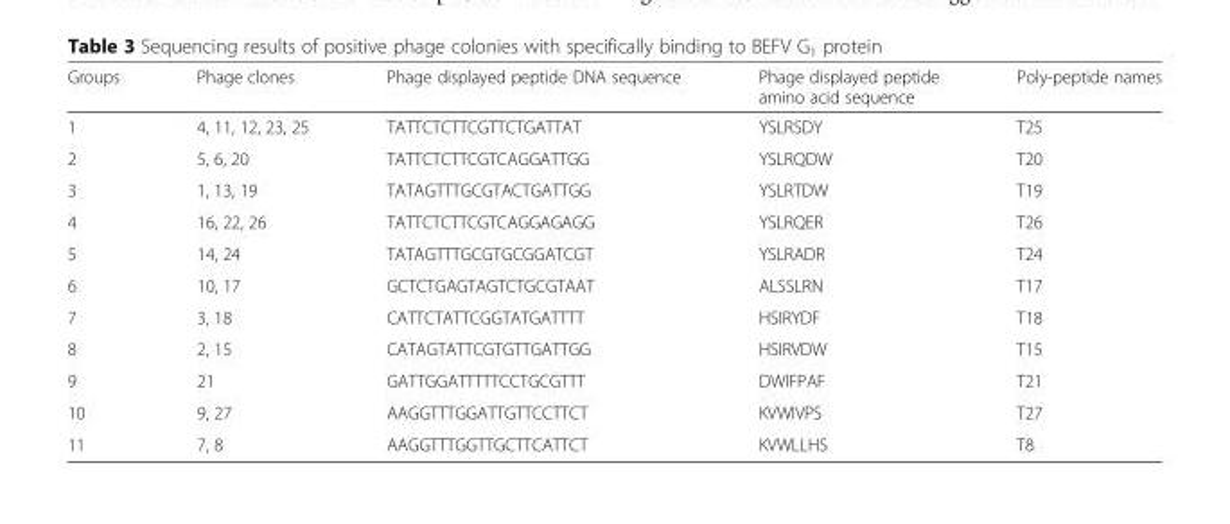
<table><thead><tr><td>Groups</td><td>Phage clones</td><td>Phage displayed peptide DNA sequence</td><td>Phage displayed peptide amino acid sequence</td><td>Poly-peptide names</td></tr></thead><tbody><tr><td>1</td><td>4, 11, 12, 23, 25</td><td>TATTCTCTTCGTTCTGATTAT</td><td>YSLRSDY</td><td>T25</td></tr><tr><td>2</td><td>5, 6, 20</td><td>TATTCTCTTCGTCAGGATTGG</td><td>YSLRQDW</td><td>T20</td></tr><tr><td>3</td><td>1, 13, 19</td><td>TATAGTTTGCGTACTGATTGG</td><td>YSLRTDW</td><td>T19</td></tr><tr><td>4</td><td>16, 22, 26</td><td>TATTCTCTTCGTCAGGAGAGG</td><td>YSLRQER</td><td>T26</td></tr><tr><td>5</td><td>14, 24</td><td>TATAGTTTGCGTGCGGATCGT</td><td>YSLRADR</td><td>T24</td></tr><tr><td>6</td><td>10, 17</td><td>GCTCTGAGTAGTCTGCGTAAT</td><td>ALSSLRN</td><td>T17</td></tr><tr><td>7</td><td>3, 18</td><td>CATTCTATTCGGTATGATTTT</td><td>HSIRYDF</td><td>T18</td></tr><tr><td>8</td><td>2, 15</td><td>CATAGTATTCGTGTTGATTGG</td><td>HSIRVDW</td><td>T15</td></tr><tr><td>9</td><td>21</td><td>GATTGGATTTTTCCTGCGTTT</td><td>DWIFPAF</td><td>T21</td></tr><tr><td>10</td><td>9, 27</td><td>AAGGTTTGGATTGTTCCTTCT</td><td>KVWIVPS</td><td>T27</td></tr><tr><td>11</td><td>7, 8</td><td>AAGGTTTGGTTGCTTCATTCT</td><td>KVWLLHS</td><td>T8</td></tr></tbody></table>